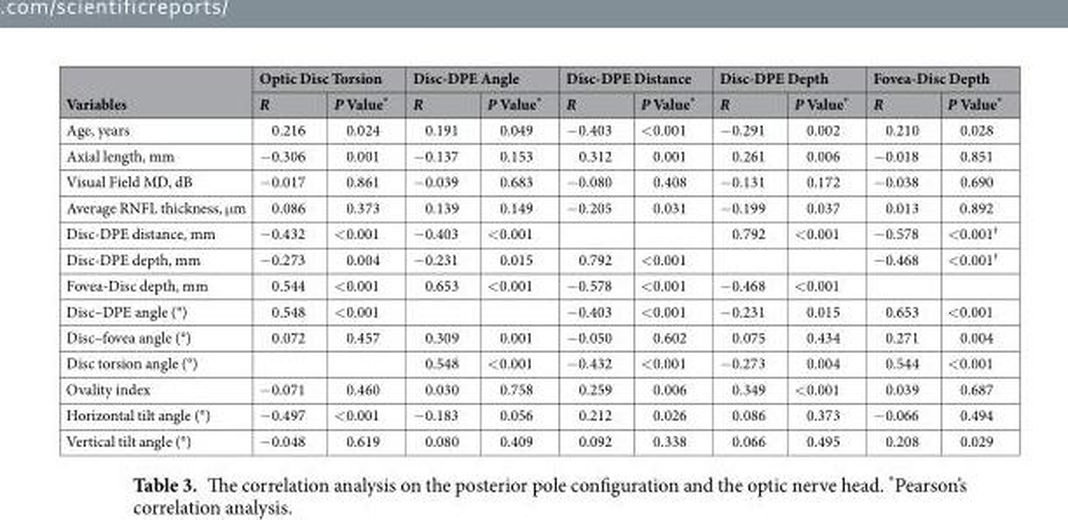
<table><thead><tr><td rowspan="2">Variables</td><td colspan="2">Optic Disc Torsion</td><td colspan="2">Disc-DPE Angle</td><td colspan="2">Disc-DPE Distance</td><td colspan="2">Disc-DPE Depth</td><td colspan="2">Fovea-Disc Depth</td></tr><tr><td>R</td><td>P Value*</td><td>R</td><td>P Value*</td><td>R</td><td>P Value*</td><td>R</td><td>P Value*</td><td>R</td><td>P Value*</td></tr></thead><tbody><tr><td>Age, years</td><td>0.216</td><td>0.024</td><td>0.191</td><td>0.049</td><td>−0.403</td><td>&lt;0.001</td><td>−0.291</td><td>0.002</td><td>0.210</td><td>0.028</td></tr><tr><td>Axial length, mm</td><td>−0.306</td><td>0.001</td><td>−0.137</td><td>0.153</td><td>0.312</td><td>0.001</td><td>0.261</td><td>0.006</td><td>−0.018</td><td>0.851</td></tr><tr><td>Visual Field MD, dB</td><td>−0.017</td><td>0.861</td><td>−0.039</td><td>0.683</td><td>−0.080</td><td>0.408</td><td>−0.131</td><td>0.172</td><td>−0.038</td><td>0.690</td></tr><tr><td>Average RNFL thickness, μm</td><td>0.086</td><td>0.373</td><td>0.139</td><td>0.149</td><td>−0.205</td><td>0.031</td><td>−0.199</td><td>0.037</td><td>0.013</td><td>0.892</td></tr><tr><td>Disc-DPE distance, mm</td><td>−0.432</td><td>&lt;0.001</td><td>−0.403</td><td>&lt;0.001</td><td></td><td></td><td>0.792</td><td>&lt;0.001</td><td>−0.578</td><td>&lt;0.001<sup>†</sup></td></tr><tr><td>Disc-DPE depth, mm</td><td>−0.273</td><td>0.004</td><td>−0.231</td><td>0.015</td><td>0.792</td><td>&lt;0.001</td><td></td><td></td><td>−0.468</td><td>&lt;0.001<sup>†</sup></td></tr><tr><td>Fovea-Disc depth, mm</td><td>0.544</td><td>&lt;0.001</td><td>0.653</td><td>&lt;0.001</td><td>−0.578</td><td>&lt;0.001</td><td>−0.468</td><td>&lt;0.001</td><td></td><td></td></tr><tr><td>Disc–DPE angle (°)</td><td>0.548</td><td>&lt;0.001</td><td></td><td></td><td>−0.403</td><td>&lt;0.001</td><td>−0.231</td><td>0.015</td><td>0.653</td><td>&lt;0.001</td></tr><tr><td>Disc–fovea angle (°)</td><td>0.072</td><td>0.457</td><td>0.309</td><td>0.001</td><td>−0.050</td><td>0.602</td><td>0.075</td><td>0.434</td><td>0.271</td><td>0.004</td></tr><tr><td>Disc torsion angle (°)</td><td></td><td></td><td>0.548</td><td>&lt;0.001</td><td>−0.432</td><td>&lt;0.001</td><td>−0.273</td><td>0.004</td><td>0.544</td><td>&lt;0.001</td></tr><tr><td>Ovality index</td><td>−0.071</td><td>0.460</td><td>0.030</td><td>0.758</td><td>0.259</td><td>0.006</td><td>0.349</td><td>&lt;0.001</td><td>0.039</td><td>0.687</td></tr><tr><td>Horizontal tilt angle (°)</td><td>−0.497</td><td>&lt;0.001</td><td>−0.183</td><td>0.056</td><td>0.212</td><td>0.026</td><td>0.086</td><td>0.373</td><td>−0.066</td><td>0.494</td></tr><tr><td>Vertical tilt angle (°)</td><td>−0.048</td><td>0.619</td><td>0.080</td><td>0.409</td><td>0.092</td><td>0.338</td><td>0.066</td><td>0.495</td><td>0.208</td><td>0.029</td></tr></tbody></table>